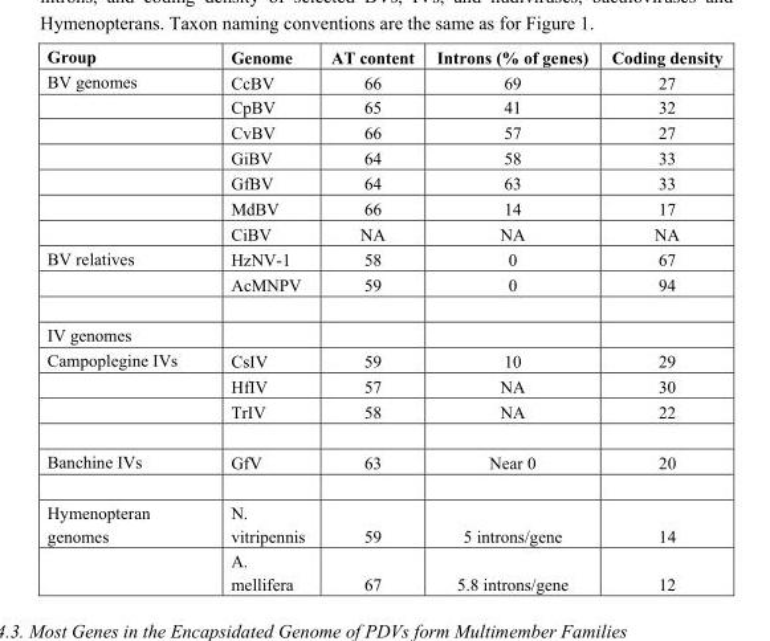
<table><thead><tr><td>Group</td><td>Genome</td><td>AT content</td><td>Introns (% of genes)</td><td>Coding density</td></tr></thead><tbody><tr><td rowspan="7">BV genomes</td><td>CcBV</td><td>66</td><td>69</td><td>27</td></tr><tr><td>CpBV</td><td>65</td><td>41</td><td>32</td></tr><tr><td>CvBV</td><td>66</td><td>57</td><td>27</td></tr><tr><td>GiBV</td><td>64</td><td>58</td><td>33</td></tr><tr><td>GfBV</td><td>64</td><td>63</td><td>33</td></tr><tr><td>MdBV</td><td>66</td><td>14</td><td>17</td></tr><tr><td>CiBV</td><td>NA</td><td>NA</td><td>NA</td></tr><tr><td rowspan="2">BV relatives</td><td>HzNV-1</td><td>58</td><td>0</td><td>67</td></tr><tr><td>AcMNPV</td><td>59</td><td>0</td><td>94</td></tr><tr><td colspan="5">IV genomes</td></tr><tr><td rowspan="3">Campoplegine IVs</td><td>CsIV</td><td>59</td><td>10</td><td>29</td></tr><tr><td>HfIV</td><td>57</td><td>NA</td><td>30</td></tr><tr><td>TrIV</td><td>58</td><td>NA</td><td>22</td></tr><tr><td>Banchine IVs</td><td>GfV</td><td>63</td><td>Near 0</td><td>20</td></tr><tr><td rowspan="2">Hymenopteran genomes</td><td>N. vitripennis</td><td>59</td><td>5 introns/gene</td><td>14</td></tr><tr><td>A. mellifera</td><td>67</td><td>5.8 introns/gene</td><td>12</td></tr></tbody></table>